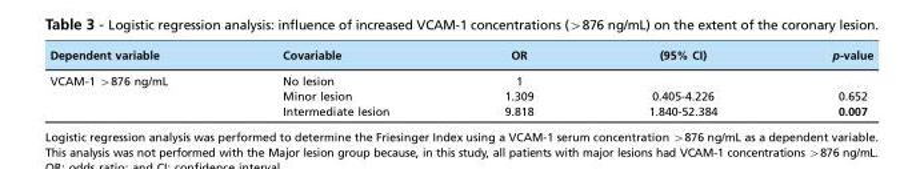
<table><thead><tr><td>Dependent variable</td><td>Covariable</td><td>OR</td><td>(95% CI)</td><td>p-value</td></tr></thead><tbody><tr><td rowspan="3">VCAM-1 &gt;876 ng/mL</td><td>No lesion</td><td>1</td><td></td><td></td></tr><tr><td>Minor lesion</td><td>1.309</td><td>0.405-4.226</td><td>0.652</td></tr><tr><td>Intermediate lesion</td><td>9.818</td><td>1.840-52.384</td><td>0.007</td></tr></tbody></table>